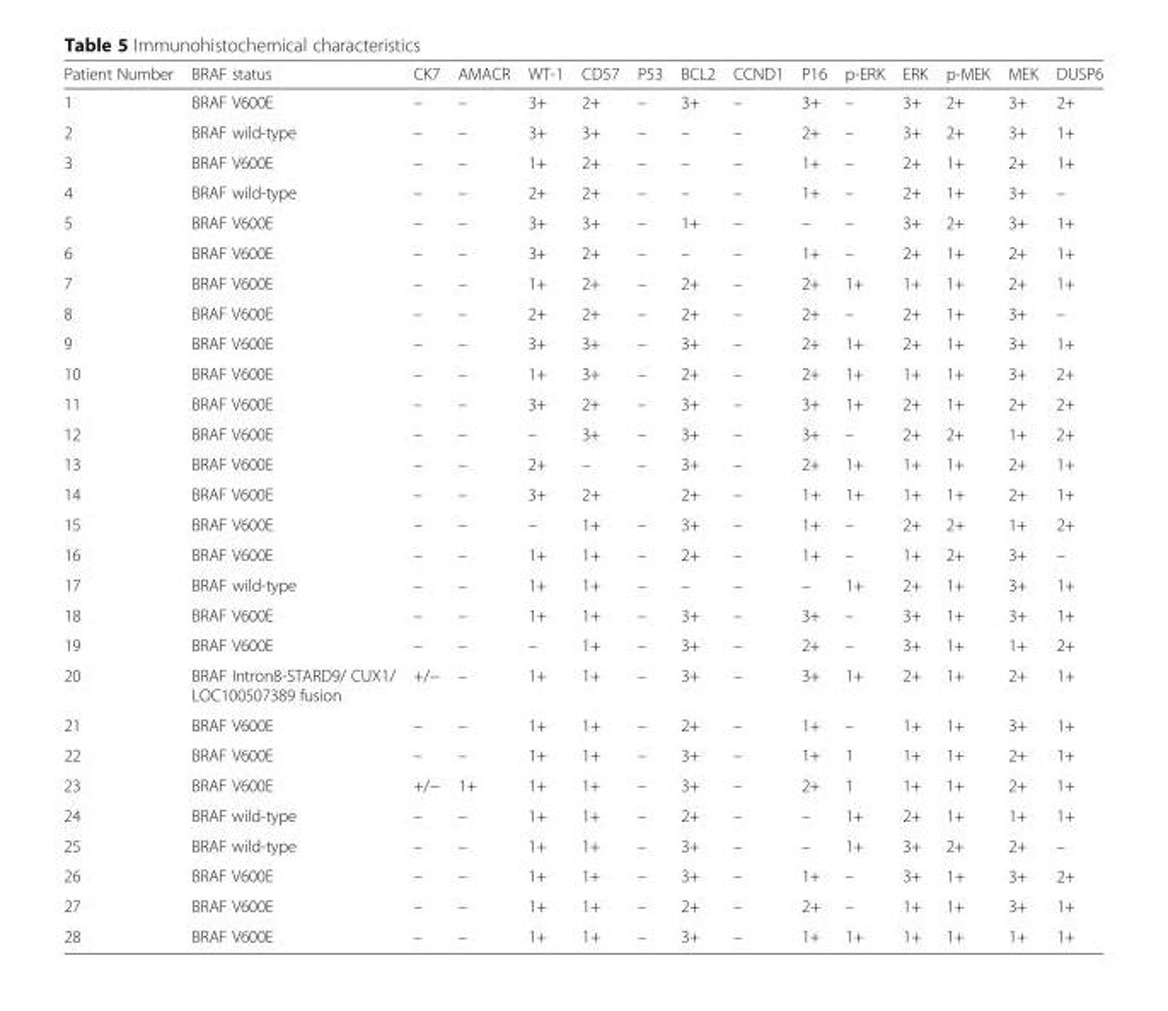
<table><thead><tr><td>Patient Number</td><td>BRAF status</td><td>CK7</td><td>AMACR</td><td>WT-1</td><td>CD57</td><td>P53</td><td>BCL2</td><td>CCND1</td><td>P16</td><td>p-ERK</td><td>ERK</td><td>p-MEK</td><td>MEK</td><td>DUSP6</td></tr></thead><tbody><tr><td>1</td><td>BRAF V600E</td><td>–</td><td>–</td><td>3+</td><td>2+</td><td>–</td><td>3+</td><td>–</td><td>3+</td><td>–</td><td>3+</td><td>2+</td><td>3+</td><td>2+</td></tr><tr><td>2</td><td>BRAF wild-type</td><td>–</td><td>–</td><td>3+</td><td>3+</td><td>–</td><td>–</td><td>–</td><td>2+</td><td>–</td><td>3+</td><td>2+</td><td>3+</td><td>1+</td></tr><tr><td>3</td><td>BRAF V600E</td><td>–</td><td>–</td><td>1+</td><td>2+</td><td>–</td><td>–</td><td>–</td><td>1+</td><td>–</td><td>2+</td><td>1+</td><td>2+</td><td>1+</td></tr><tr><td>4</td><td>BRAF wild-type</td><td>–</td><td>–</td><td>2+</td><td>2+</td><td>–</td><td>–</td><td>–</td><td>1+</td><td>–</td><td>2+</td><td>1+</td><td>3+</td><td>–</td></tr><tr><td>5</td><td>BRAF V600E</td><td>–</td><td>–</td><td>3+</td><td>3+</td><td>–</td><td>1+</td><td>–</td><td>–</td><td>–</td><td>3+</td><td>2+</td><td>3+</td><td>1+</td></tr><tr><td>6</td><td>BRAF V600E</td><td>–</td><td>–</td><td>3+</td><td>2+</td><td>–</td><td>–</td><td>–</td><td>1+</td><td>–</td><td>2+</td><td>1+</td><td>2+</td><td>1+</td></tr><tr><td>7</td><td>BRAF V600E</td><td>–</td><td>–</td><td>1+</td><td>2+</td><td>–</td><td>2+</td><td>–</td><td>2+</td><td>1+</td><td>1+</td><td>1+</td><td>2+</td><td>1+</td></tr><tr><td>8</td><td>BRAF V600E</td><td>–</td><td>–</td><td>2+</td><td>2+</td><td>–</td><td>2+</td><td>–</td><td>2+</td><td>–</td><td>2+</td><td>1+</td><td>3+</td><td>–</td></tr><tr><td>9</td><td>BRAF V600E</td><td>–</td><td>–</td><td>3+</td><td>3+</td><td>–</td><td>3+</td><td>–</td><td>2+</td><td>1+</td><td>2+</td><td>1+</td><td>3+</td><td>1+</td></tr><tr><td>10</td><td>BRAF V600E</td><td>–</td><td>–</td><td>1+</td><td>3+</td><td>–</td><td>2+</td><td>–</td><td>2+</td><td>1+</td><td>1+</td><td>1+</td><td>3+</td><td>2+</td></tr><tr><td>11</td><td>BRAF V600E</td><td>–</td><td>–</td><td>3+</td><td>2+</td><td>–</td><td>3+</td><td>–</td><td>3+</td><td>1+</td><td>2+</td><td>1+</td><td>2+</td><td>2+</td></tr><tr><td>12</td><td>BRAF V600E</td><td>–</td><td>–</td><td>–</td><td>3+</td><td>–</td><td>3+</td><td>–</td><td>3+</td><td>–</td><td>2+</td><td>2+</td><td>1+</td><td>2+</td></tr><tr><td>13</td><td>BRAF V600E</td><td>–</td><td>–</td><td>2+</td><td>–</td><td>–</td><td>3+</td><td>–</td><td>2+</td><td>1+</td><td>1+</td><td>1+</td><td>2+</td><td>1+</td></tr><tr><td>14</td><td>BRAF V600E</td><td>–</td><td>–</td><td>3+</td><td>2+</td><td></td><td>2+</td><td>–</td><td>1+</td><td>1+</td><td>1+</td><td>1+</td><td>2+</td><td>1+</td></tr><tr><td>15</td><td>BRAF V600E</td><td>–</td><td>–</td><td>–</td><td>1+</td><td>–</td><td>3+</td><td>–</td><td>1+</td><td>–</td><td>2+</td><td>2+</td><td>1+</td><td>2+</td></tr><tr><td>16</td><td>BRAF V600E</td><td>–</td><td>–</td><td>1+</td><td>1+</td><td>–</td><td>2+</td><td>–</td><td>1+</td><td>–</td><td>1+</td><td>2+</td><td>3+</td><td>–</td></tr><tr><td>17</td><td>BRAF wild-type</td><td>–</td><td>–</td><td>1+</td><td>1+</td><td>–</td><td>–</td><td>–</td><td>–</td><td>1+</td><td>2+</td><td>1+</td><td>3+</td><td>1+</td></tr><tr><td>18</td><td>BRAF V600E</td><td>–</td><td>–</td><td>1+</td><td>1+</td><td>–</td><td>3+</td><td>–</td><td>3+</td><td>–</td><td>3+</td><td>1+</td><td>3+</td><td>1+</td></tr><tr><td>19</td><td>BRAF V600E</td><td>–</td><td>–</td><td>–</td><td>1+</td><td>–</td><td>3+</td><td>–</td><td>2+</td><td>–</td><td>3+</td><td>1+</td><td>1+</td><td>2+</td></tr><tr><td>20</td><td>BRAF Intron8-STARD9/ CUX1/ LOC100507389 fusion</td><td>+/−</td><td>–</td><td>1+</td><td>1+</td><td>–</td><td>3+</td><td>–</td><td>3+</td><td>1+</td><td>2+</td><td>1+</td><td>2+</td><td>1+</td></tr><tr><td>21</td><td>BRAF V600E</td><td>–</td><td>–</td><td>1+</td><td>1+</td><td>–</td><td>2+</td><td>–</td><td>1+</td><td>–</td><td>1+</td><td>1+</td><td>3+</td><td>1+</td></tr><tr><td>22</td><td>BRAF V600E</td><td>–</td><td>–</td><td>1+</td><td>1+</td><td>–</td><td>3+</td><td>–</td><td>1+</td><td>1</td><td>1+</td><td>1+</td><td>2+</td><td>1+</td></tr><tr><td>23</td><td>BRAF V600E</td><td>+/−</td><td>1+</td><td>1+</td><td>1+</td><td>–</td><td>3+</td><td>–</td><td>2+</td><td>1</td><td>1+</td><td>1+</td><td>2+</td><td>1+</td></tr><tr><td>24</td><td>BRAF wild-type</td><td>–</td><td>–</td><td>1+</td><td>1+</td><td>–</td><td>2+</td><td>–</td><td>–</td><td>1+</td><td>2+</td><td>1+</td><td>1+</td><td>1+</td></tr><tr><td>25</td><td>BRAF wild-type</td><td>–</td><td>–</td><td>1+</td><td>1+</td><td>–</td><td>3+</td><td>–</td><td>–</td><td>1+</td><td>3+</td><td>2+</td><td>2+</td><td>–</td></tr><tr><td>26</td><td>BRAF V600E</td><td>–</td><td>–</td><td>1+</td><td>1+</td><td>–</td><td>3+</td><td>–</td><td>1+</td><td>–</td><td>3+</td><td>1+</td><td>3+</td><td>2+</td></tr><tr><td>27</td><td>BRAF V600E</td><td>–</td><td>–</td><td>1+</td><td>1+</td><td>–</td><td>2+</td><td>–</td><td>2+</td><td>–</td><td>1+</td><td>1+</td><td>3+</td><td>1+</td></tr><tr><td>28</td><td>BRAF V600E</td><td>–</td><td>–</td><td>1+</td><td>1+</td><td>–</td><td>3+</td><td>–</td><td>1+</td><td>1+</td><td>1+</td><td>1+</td><td>1+</td><td>1+</td></tr></tbody></table>